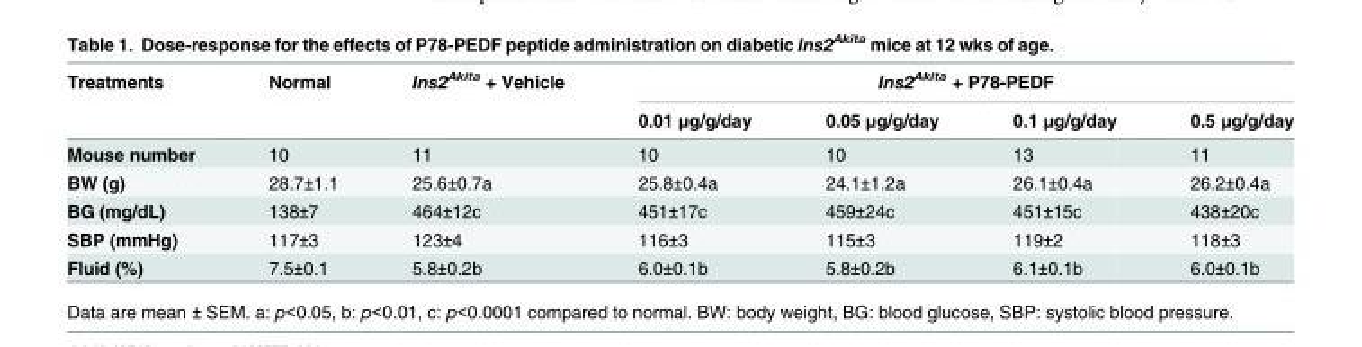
<table><thead><tr><td rowspan="2">Treatments</td><td rowspan="2">Normal</td><td rowspan="2">Ins2<sup>Akita</sup> + Vehicle</td><td colspan="4">Ins2<sup>Akita</sup> + P78-PEDF</td></tr><tr><td>0.01 μg/g/day</td><td>0.05 μg/g/day</td><td>0.1 μg/g/day</td><td>0.5 μg/g/day</td></tr></thead><tbody><tr><td>Mouse number</td><td>10</td><td>11</td><td>10</td><td>10</td><td>13</td><td>11</td></tr><tr><td>BW (g)</td><td>28.7±1.1</td><td>25.6±0.7a</td><td>25.8±0.4a</td><td>24.1±1.2a</td><td>26.1±0.4a</td><td>26.2±0.4a</td></tr><tr><td>BG (mg/dL)</td><td>138±7</td><td>464±12c</td><td>451±17c</td><td>459±24c</td><td>451±15c</td><td>438±20c</td></tr><tr><td>SBP (mmHg)</td><td>117±3</td><td>123±4</td><td>116±3</td><td>115±3</td><td>119±2</td><td>118±3</td></tr><tr><td>Fluid (%)</td><td>7.5±0.1</td><td>5.8±0.2b</td><td>6.0±0.1b</td><td>5.8±0.2b</td><td>6.1±0.1b</td><td>6.0±0.1b</td></tr></tbody></table>